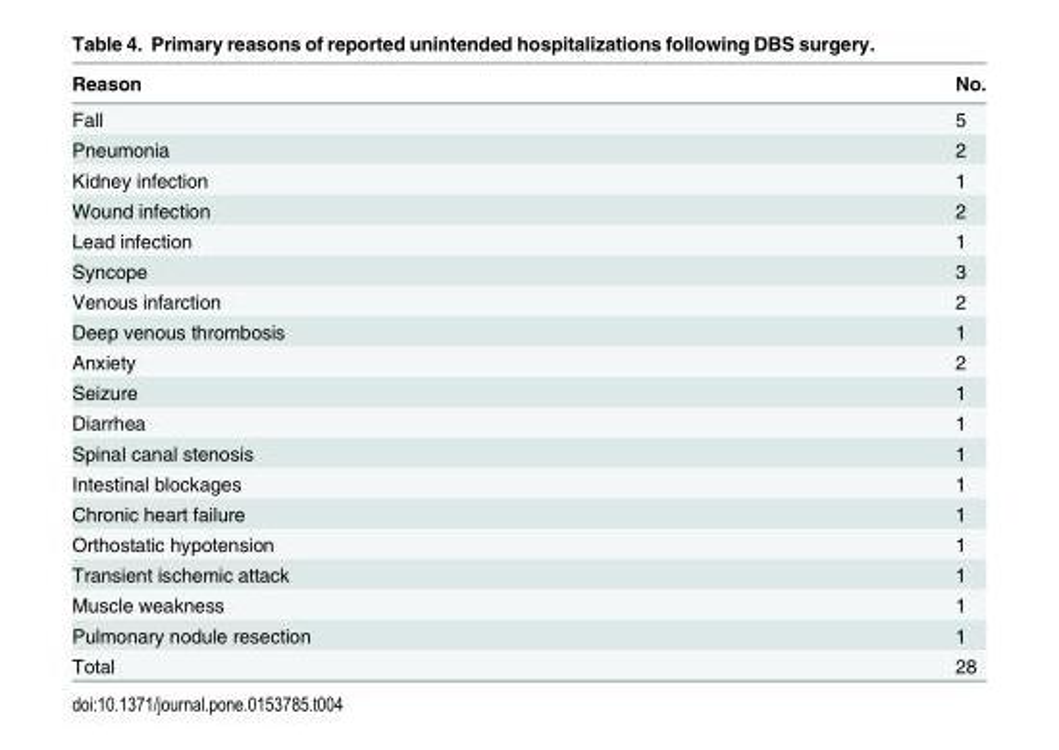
<table><thead><tr><td>Reason</td><td>No.</td></tr></thead><tbody><tr><td>Fall</td><td>5</td></tr><tr><td>Pneumonia</td><td>2</td></tr><tr><td>Kidney infection</td><td>1</td></tr><tr><td>Wound infection</td><td>2</td></tr><tr><td>Lead infection</td><td>1</td></tr><tr><td>Syncope</td><td>3</td></tr><tr><td>Venous infarction</td><td>2</td></tr><tr><td>Deep venous thrombosis</td><td>1</td></tr><tr><td>Anxiety</td><td>2</td></tr><tr><td>Seizure</td><td>1</td></tr><tr><td>Diarrhea</td><td>1</td></tr><tr><td>Spinal canal stenosis</td><td>1</td></tr><tr><td>Intestinal blockages</td><td>1</td></tr><tr><td>Chronic heart failure</td><td>1</td></tr><tr><td>Orthostatic hypotension</td><td>1</td></tr><tr><td>Transient ischemic attack</td><td>1</td></tr><tr><td>Muscle weakness</td><td>1</td></tr><tr><td>Pulmonary nodule resection</td><td>1</td></tr><tr><td>Total</td><td>28</td></tr></tbody></table>